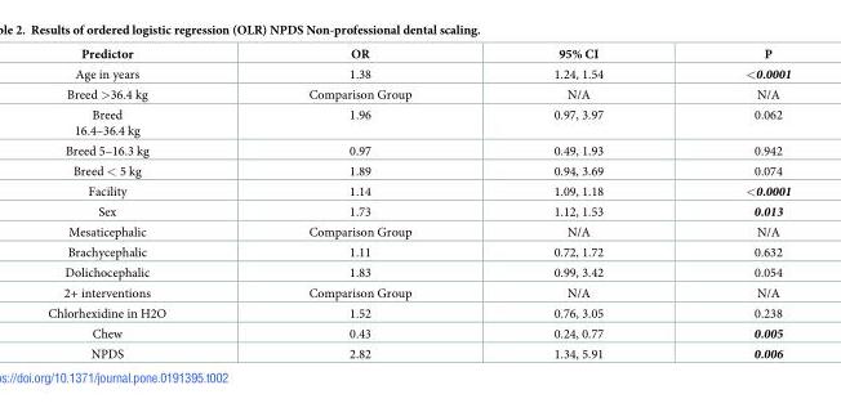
<table><thead><tr><td>Predictor</td><td>OR</td><td>95% CI</td><td>P</td></tr></thead><tbody><tr><td>Age in years</td><td>1.38</td><td>1.24, 1.54</td><td>&lt;0.0001</td></tr><tr><td>Breed &gt;36.4 kg</td><td>Comparison Group</td><td>N/A</td><td>N/A</td></tr><tr><td>Breed 16.4–36.4 kg</td><td>1.96</td><td>0.97, 3.97</td><td>0.062</td></tr><tr><td>Breed 5–16.3 kg</td><td>0.97</td><td>0.49, 1.93</td><td>0.942</td></tr><tr><td>Breed &lt; 5 kg</td><td>1.89</td><td>0.94, 3.69</td><td>0.074</td></tr><tr><td>Facility</td><td>1.14</td><td>1.09, 1.18</td><td>&lt;0.0001</td></tr><tr><td>Sex</td><td>1.73</td><td>1.12, 1.53</td><td>0.013</td></tr><tr><td>Mesaticephalic</td><td>Comparison Group</td><td>N/A</td><td>N/A</td></tr><tr><td>Brachycephalic</td><td>1.11</td><td>0.72, 1.72</td><td>0.632</td></tr><tr><td>Dolichocephalic</td><td>1.83</td><td>0.99, 3.42</td><td>0.054</td></tr><tr><td>2+ interventions</td><td>Comparison Group</td><td>N/A</td><td>N/A</td></tr><tr><td>Chlorhexidine in H2O</td><td>1.52</td><td>0.76, 3.05</td><td>0.238</td></tr><tr><td>Chew</td><td>0.43</td><td>0.24, 0.77</td><td>0.005</td></tr><tr><td>NPDS</td><td>2.82</td><td>1.34, 5.91</td><td>0.006</td></tr></tbody></table>